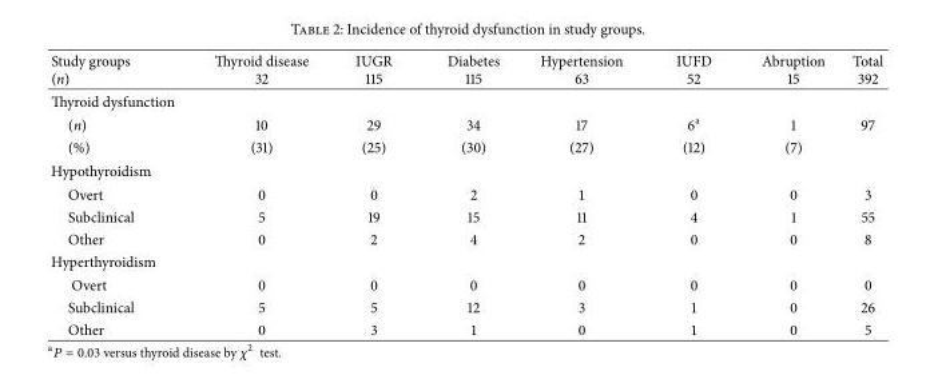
<table><thead><tr><td>Study groups (n)</td><td>Thyroid disease 32</td><td>IUGR 115</td><td>Diabetes 115</td><td>Hypertension 63</td><td>IUFD 52</td><td>Abruption 15</td><td>Total 392</td></tr></thead><tbody><tr><td colspan="8">Thyroid dysfunction</td></tr><tr><td>(n)</td><td>10</td><td>29</td><td>34</td><td>17</td><td>6<sup>a</sup></td><td>1</td><td>97</td></tr><tr><td>(%)</td><td>(31)</td><td>(25)</td><td>(30)</td><td>(27)</td><td>(12)</td><td>(7)</td><td></td></tr><tr><td colspan="8">Hypothyroidism</td></tr><tr><td>Overt</td><td>0</td><td>0</td><td>2</td><td>1</td><td>0</td><td>0</td><td>3</td></tr><tr><td>Subclinical</td><td>5</td><td>19</td><td>15</td><td>11</td><td>4</td><td>1</td><td>55</td></tr><tr><td>Other</td><td>0</td><td>2</td><td>4</td><td>2</td><td>0</td><td>0</td><td>8</td></tr><tr><td colspan="8">Hyperthyroidism</td></tr><tr><td>Overt</td><td>0</td><td>0</td><td>0</td><td>0</td><td>0</td><td>0</td><td>0</td></tr><tr><td>Subclinical</td><td>5</td><td>5</td><td>12</td><td>3</td><td>1</td><td>0</td><td>26</td></tr><tr><td>Other</td><td>0</td><td>3</td><td>1</td><td>0</td><td>1</td><td>0</td><td>5</td></tr></tbody></table>